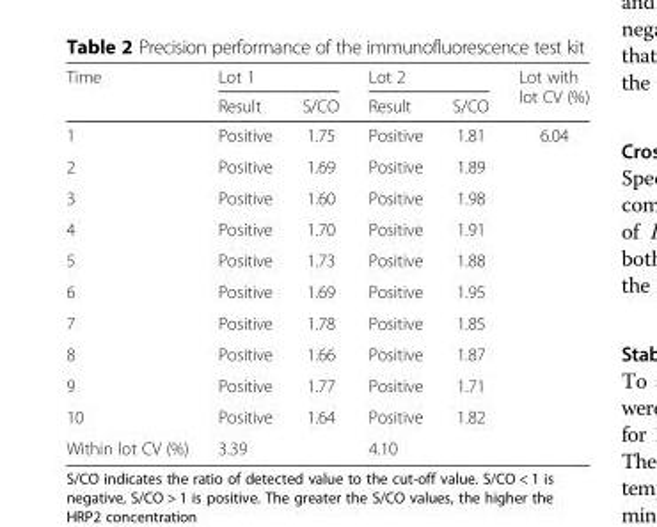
<table><thead><tr><td rowspan="2">Time</td><td colspan="2">Lot 1</td><td colspan="2">Lot 2</td><td rowspan="2">Lot with lot CV (%)</td></tr><tr><td>Result</td><td>S/CO</td><td>Result</td><td>S/CO</td></tr></thead><tbody><tr><td>1</td><td>Positive</td><td>1.75</td><td>Positive</td><td>1.81</td><td rowspan="11">6.04</td></tr><tr><td>2</td><td>Positive</td><td>1.69</td><td>Positive</td><td>1.89</td></tr><tr><td>3</td><td>Positive</td><td>1.60</td><td>Positive</td><td>1.98</td></tr><tr><td>4</td><td>Positive</td><td>1.70</td><td>Positive</td><td>1.91</td></tr><tr><td>5</td><td>Positive</td><td>1.73</td><td>Positive</td><td>1.88</td></tr><tr><td>6</td><td>Positive</td><td>1.69</td><td>Positive</td><td>1.95</td></tr><tr><td>7</td><td>Positive</td><td>1.78</td><td>Positive</td><td>1.85</td></tr><tr><td>8</td><td>Positive</td><td>1.66</td><td>Positive</td><td>1.87</td></tr><tr><td>9</td><td>Positive</td><td>1.77</td><td>Positive</td><td>1.71</td></tr><tr><td>10</td><td>Positive</td><td>1.64</td><td>Positive</td><td>1.82</td></tr><tr><td>Within lot CV (%)</td><td colspan="2">3.39</td><td colspan="2">4.10</td></tr></tbody></table>